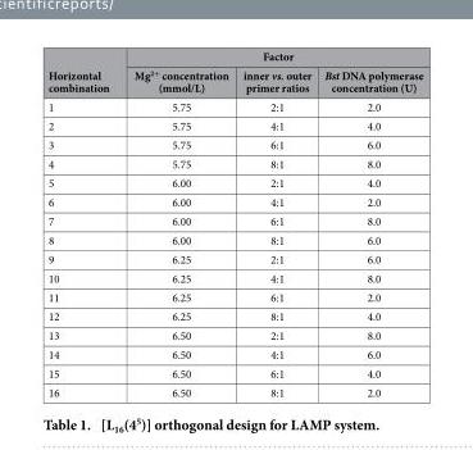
<table><thead><tr><td rowspan="2">Horizontal combination</td><td colspan="3">Factor</td></tr><tr><td>Mg<sup>2+</sup> concentration (mmol/L)</td><td>inner vs. outer primer ratios</td><td>Bst DNA polymerase concentration (U)</td></tr></thead><tbody><tr><td>1</td><td>5.75</td><td>2:1</td><td>2.0</td></tr><tr><td>2</td><td>5.75</td><td>4:1</td><td>4.0</td></tr><tr><td>3</td><td>5.75</td><td>6:1</td><td>6.0</td></tr><tr><td>4</td><td>5.75</td><td>8:1</td><td>8.0</td></tr><tr><td>5</td><td>6.00</td><td>2:1</td><td>4.0</td></tr><tr><td>6</td><td>6.00</td><td>4:1</td><td>2.0</td></tr><tr><td>7</td><td>6.00</td><td>6:1</td><td>8.0</td></tr><tr><td>8</td><td>6.00</td><td>8:1</td><td>6.0</td></tr><tr><td>9</td><td>6.25</td><td>2:1</td><td>6.0</td></tr><tr><td>10</td><td>6.25</td><td>4:1</td><td>8.0</td></tr><tr><td>11</td><td>6.25</td><td>6:1</td><td>2.0</td></tr><tr><td>12</td><td>6.25</td><td>8:1</td><td>4.0</td></tr><tr><td>13</td><td>6.50</td><td>2:1</td><td>8.0</td></tr><tr><td>14</td><td>6.50</td><td>4:1</td><td>6.0</td></tr><tr><td>15</td><td>6.50</td><td>6:1</td><td>4.0</td></tr><tr><td>16</td><td>6.50</td><td>8:1</td><td>2.0</td></tr></tbody></table>